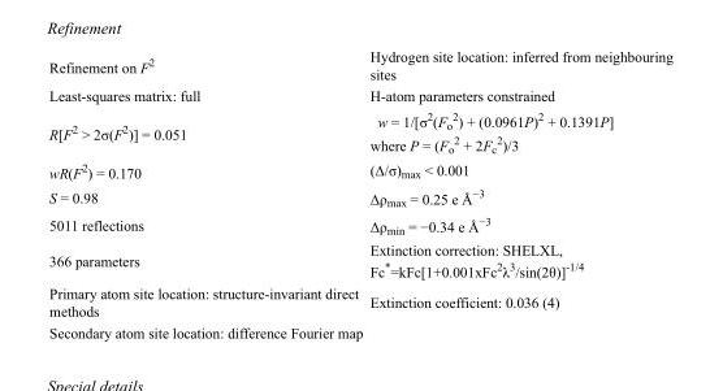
<table><tbody><tr><td>Refinement on F<sup>2</sup></td><td>Hydrogen site location: inferred from neighbouring sites</td></tr><tr><td>Least-squares matrix: full</td><td>H-atom parameters constrained</td></tr><tr><td>R[F<sup>2</sup> &gt; 2σ(F<sup>2</sup>)] = 0.051</td><td>w = 1/[σ<sup>2</sup>(F<sub>o</sub> <sup>2</sup>) + (0.0961P)<sup>2</sup> + 0.1391P] where P = (F<sub>o</sub> <sup>2</sup> + 2F<sub>c</sub> <sup>2</sup>)/3</td></tr><tr><td>wR(F<sup>2</sup>) = 0.170</td><td>(Δ/σ)<sub>max</sub> &lt; 0.001</td></tr><tr><td>S = 0.98</td><td>Δρ<sub>max</sub> = 0.25 e Å<sup>−3</sup></td></tr><tr><td>5011 reflections</td><td>Δρ<sub>min</sub> = −0.34 e Å<sup>−3</sup></td></tr><tr><td>366 parameters</td><td>Extinction correction: SHELXL, Fc*=kFc[1+0.001xFc<sup>2</sup>λ<sup>3</sup>/sin(2θ)]<sup>-1/4</sup></td></tr><tr><td>Primary atom site location: structure-invariant direct methods</td><td>Extinction coefficient: 0.036 (4)</td></tr><tr><td>Secondary atom site location: difference Fourier map</td><td></td></tr></tbody></table>